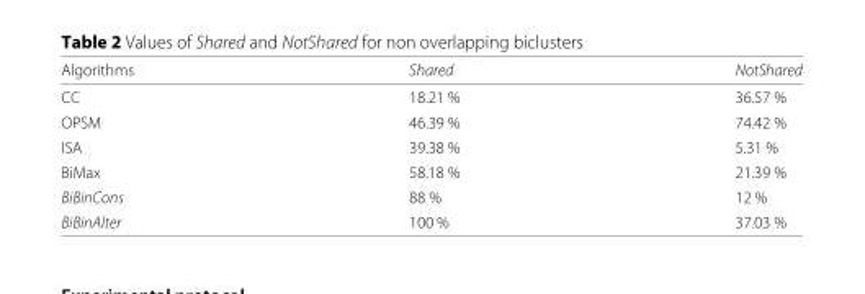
<table><thead><tr><td>Algorithms</td><td>Shared</td><td>NotShared</td></tr></thead><tbody><tr><td>CC</td><td>18.21 %</td><td>36.57 %</td></tr><tr><td>OPSM</td><td>46.39 %</td><td>74.42 %</td></tr><tr><td>ISA</td><td>39.38 %</td><td>5.31 %</td></tr><tr><td>BiMax</td><td>58.18 %</td><td>21.39 %</td></tr><tr><td>BiBinCons</td><td>88 %</td><td>12 %</td></tr><tr><td>BiBinAlter</td><td>100 %</td><td>37.03 %</td></tr></tbody></table>